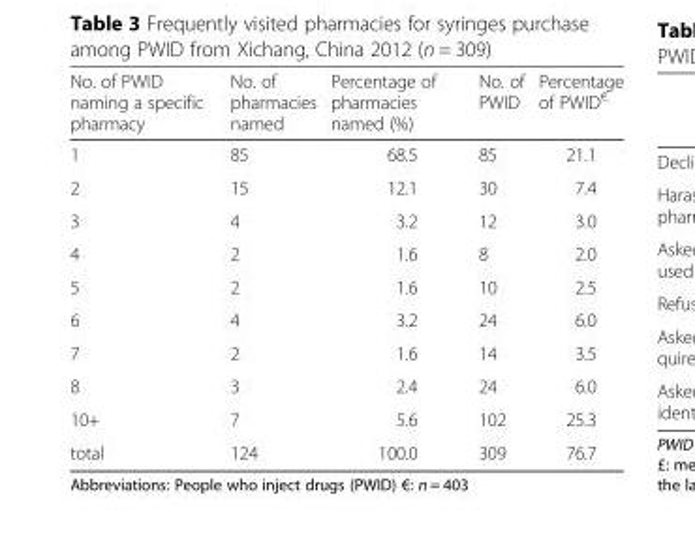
<table><thead><tr><td>No. of PWID naming a specific pharmacy</td><td>No. of pharmacies named</td><td>Percentage of pharmacies named (%)</td><td>No. of PWID</td><td>Percentage of PWID<sup>€</sup></td></tr></thead><tbody><tr><td>1</td><td>85</td><td>68.5</td><td>85</td><td>21.1</td></tr><tr><td>2</td><td>15</td><td>12.1</td><td>30</td><td>7.4</td></tr><tr><td>3</td><td>4</td><td>3.2</td><td>12</td><td>3.0</td></tr><tr><td>4</td><td>2</td><td>1.6</td><td>8</td><td>2.0</td></tr><tr><td>5</td><td>2</td><td>1.6</td><td>10</td><td>2.5</td></tr><tr><td>6</td><td>4</td><td>3.2</td><td>24</td><td>6.0</td></tr><tr><td>7</td><td>2</td><td>1.6</td><td>14</td><td>3.5</td></tr><tr><td>8</td><td>3</td><td>2.4</td><td>24</td><td>6.0</td></tr><tr><td>10+</td><td>7</td><td>5.6</td><td>102</td><td>25.3</td></tr><tr><td>total</td><td>124</td><td>100.0</td><td>309</td><td>76.7</td></tr></tbody></table>